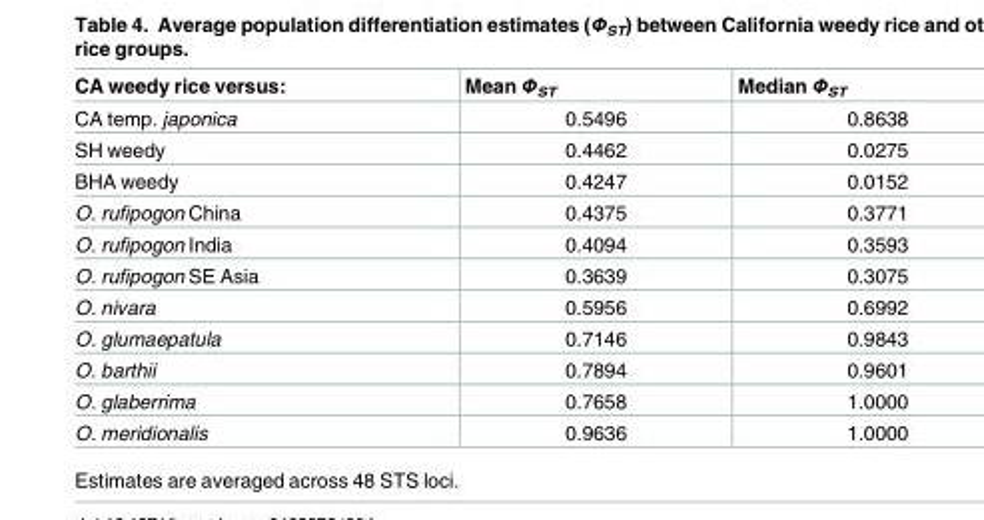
<table><thead><tr><td>CA weedy rice versus:</td><td>Mean Ф<sub>ST</sub></td><td>Median Ф<sub>ST</sub></td></tr></thead><tbody><tr><td>CA temp. japonica</td><td>0.5496</td><td>0.8638</td></tr><tr><td>SH weedy</td><td>0.4462</td><td>0.0275</td></tr><tr><td>BHA weedy</td><td>0.4247</td><td>0.0152</td></tr><tr><td>O. rufipogon China</td><td>0.4375</td><td>0.3771</td></tr><tr><td>O. rufipogon India</td><td>0.4094</td><td>0.3593</td></tr><tr><td>O. rufipogon SE Asia</td><td>0.3639</td><td>0.3075</td></tr><tr><td>O. nivara</td><td>0.5956</td><td>0.6992</td></tr><tr><td>O. glumaepatula</td><td>0.7146</td><td>0.9843</td></tr><tr><td>O. barthii</td><td>0.7894</td><td>0.9601</td></tr><tr><td>O. glaberrima</td><td>0.7658</td><td>1.0000</td></tr><tr><td>O. meridionalis</td><td>0.9636</td><td>1.0000</td></tr></tbody></table>